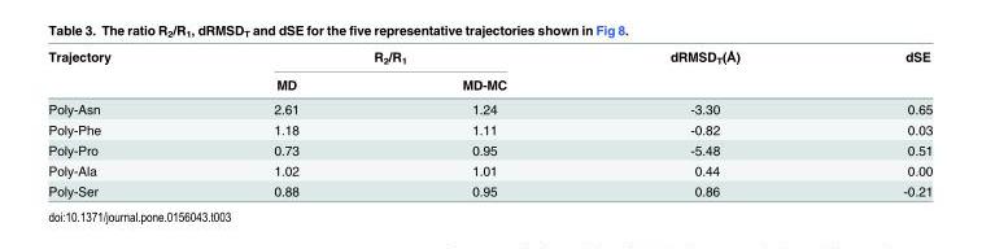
<table><thead><tr><td rowspan="2">Trajectory</td><td colspan="2">R<sub>2</sub>/R<sub>1</sub></td><td rowspan="2">dRMSD<sub>T</sub>(Å)</td><td rowspan="2">dSE</td></tr><tr><td>MD</td><td>MD-MC</td></tr></thead><tbody><tr><td>Poly-Asn</td><td>2.61</td><td>1.24</td><td>-3.30</td><td>0.65</td></tr><tr><td>Poly-Phe</td><td>1.18</td><td>1.11</td><td>-0.82</td><td>0.03</td></tr><tr><td>Poly-Pro</td><td>0.73</td><td>0.95</td><td>-5.48</td><td>0.51</td></tr><tr><td>Poly-Ala</td><td>1.02</td><td>1.01</td><td>0.44</td><td>0.00</td></tr><tr><td>Poly-Ser</td><td>0.88</td><td>0.95</td><td>0.86</td><td>-0.21</td></tr></tbody></table>